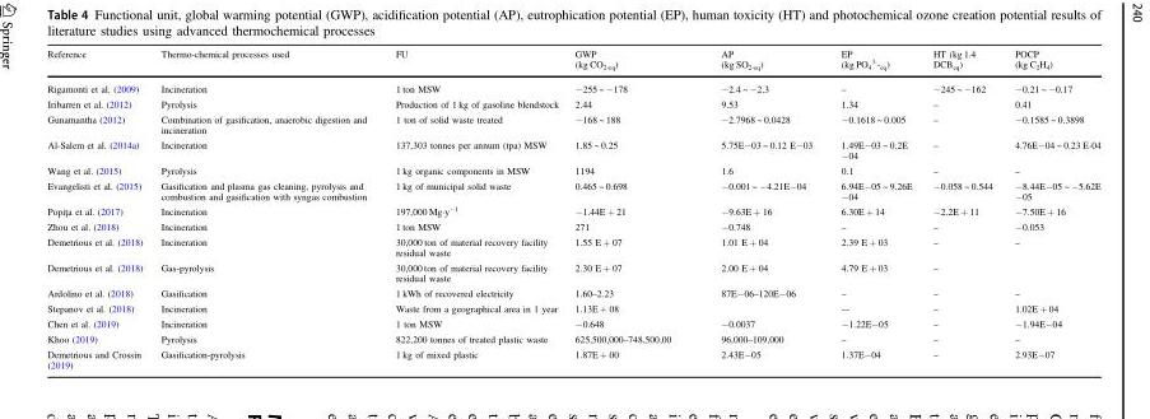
<table><thead><tr><td>Reference</td><td>Thermo-chemical processes used</td><td>FU</td><td>GWP (kg CO<sub>2-eq</sub>)</td><td>AP (kg SO<sub>2-eq</sub>)</td><td>EP (kg PO<sub>4</sub> <sup>3-</sup>-<sub>eq</sub>)</td><td>HT (kg 1.4 DCB<sub>eq</sub>)</td><td>POCP (kg C<sub>2</sub>H<sub>4</sub>)</td></tr></thead><tbody><tr><td>Rigamonti et al. (2009)</td><td>Incineration</td><td>1 ton MSW</td><td>−255 ~ −178</td><td>−2.4 ~ −2.3</td><td>–</td><td>−245 ~ −162</td><td>−0.21 ~ −0.17</td></tr><tr><td>Iribarren et al. (2012)</td><td>Pyrolysis</td><td>Production of 1 kg of gasoline blendstock</td><td>2.44</td><td>9.53</td><td>1.34</td><td>–</td><td>0.41</td></tr><tr><td>Gunamantha (2012)</td><td>Combination of gasification, anaerobic digestion and incineration</td><td>1 ton of solid waste treated</td><td>−168 ~ 188</td><td>−2.7968 ~ 0.0428</td><td>−0.1618 ~ 0.005</td><td>–</td><td>−0.1585 ~ 0.3898</td></tr><tr><td>Al-Salem et al. (2014a)</td><td>Incineration</td><td>137,303 tonnes per annum (tpa) MSW</td><td>1.85 ~ 0.25</td><td>5.75E−03 ~ 0.12 E−03</td><td>1.49E−03 ~ 0.2E −04</td><td>–</td><td>4.76E−04 ~ 0.23 E-04</td></tr><tr><td>Wang et al. (2015)</td><td>Pyrolysis</td><td>1 kg organic components in MSW</td><td>1194</td><td>1.6</td><td>0.1</td><td>–</td><td>–</td></tr><tr><td>Evangelisti et al. (2015)</td><td>Gasification and plasma gas cleaning, pyrolysis and combustion and gasification with syngas combustion</td><td>1 kg of municipal solid waste</td><td>0.465 ~ 0.698</td><td>−0.001 ~ −4.21E−04</td><td>6.94E−05 ~ 9.26E −04</td><td>−0.058 ~ 0.544</td><td>−8.44E−05 ~ −5.62E −05</td></tr><tr><td>Popiţa et al. (2017)</td><td>Incineration</td><td>197,000 Mg·y<sup>−1</sup></td><td>−1.44E + 21</td><td>−9.63E + 16</td><td>6.30E + 14</td><td>−2.2E + 11</td><td>−7.50E + 16</td></tr><tr><td>Zhou et al. (2018)</td><td>Incineration</td><td>1 ton MSW</td><td>271</td><td>−0.748</td><td>–</td><td>–</td><td>−0.053</td></tr><tr><td>Demetrious et al. (2018)</td><td>Incineration</td><td>30,000 ton of material recovery facility residual waste</td><td>1.55 E + 07</td><td>1.01 E + 04</td><td>2.39 E + 03</td><td>–</td><td>–</td></tr><tr><td>Demetrious et al. (2018)</td><td>Gas-pyrolysis</td><td>30,000 ton of material recovery facility residual waste</td><td>2.30 E + 07</td><td>2.00 E + 04</td><td>4.79 E + 03</td><td>–</td><td></td></tr><tr><td>Ardolino et al. (2018)</td><td>Gasification</td><td>1 kWh of recovered electricity</td><td>1.60–2.23</td><td>87E−06–120E−06</td><td>–</td><td>–</td><td>–</td></tr><tr><td>Stepanov et al. (2018)</td><td>Incineration</td><td>Waste from a geographical area in 1 year</td><td>1.13E + 08</td><td></td><td>-–</td><td>–</td><td>1.02E + 04</td></tr><tr><td>Chen et al. (2019)</td><td>Incineration</td><td>1 ton MSW</td><td>−0.648</td><td>−0.0037</td><td>−1.22E−05</td><td>–</td><td>−1.94E−04</td></tr><tr><td>Khoo (2019)</td><td>Pyrolysis</td><td>822,200 tonnes of treated plastic waste</td><td>625,500,000–748,500,00</td><td>96,000–109,000</td><td>–</td><td>–</td><td>–</td></tr><tr><td>Demetrious and Crossin (2019)</td><td>Gasification‑pyrolysis</td><td>1 kg of mixed plastic</td><td>1.87E + 00</td><td>2.43E−05</td><td>1.37E−04</td><td>–</td><td>2.93E−07</td></tr></tbody></table>